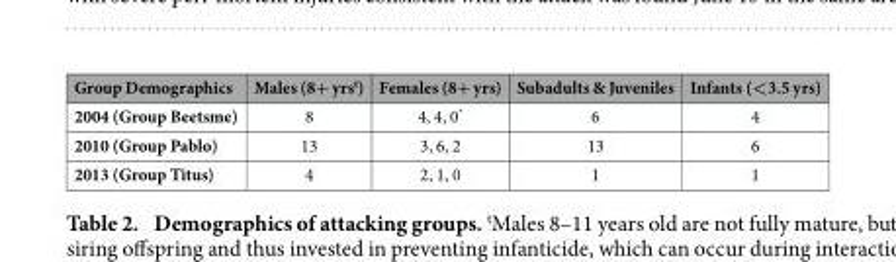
<table><thead><tr><td>Group Demographics</td><td>Males (8+ yrs<sup>t</sup>)</td><td>Females (8+ yrs)</td><td>Subadults &amp; Juveniles</td><td>Infants (&lt;3.5 yrs)</td></tr></thead><tbody><tr><td>2004 (Group Beetsme)</td><td>8</td><td>4, 4, 0*</td><td>6</td><td>4</td></tr><tr><td>2010 (Group Pablo)</td><td>13</td><td>3, 6, 2</td><td>13</td><td>6</td></tr><tr><td>2013 (Group Titus)</td><td>4</td><td>2, 1, 0</td><td>1</td><td>1</td></tr></tbody></table>